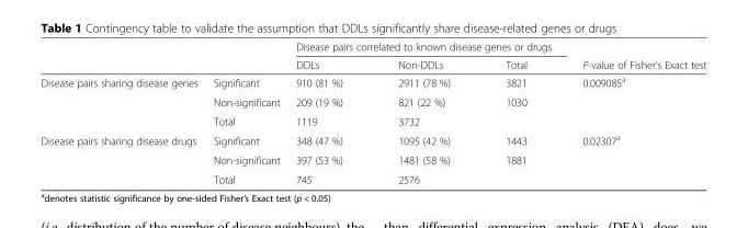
<table><thead><tr><td rowspan="2"></td><td rowspan="2"></td><td colspan="3">Disease pairs correlated to known disease genes or drugs</td><td rowspan="2">P-value of Fisher’s Exact test</td></tr><tr><td>DDLs</td><td>Non-DDLs</td><td>Total</td></tr></thead><tbody><tr><td rowspan="3">Disease pairs sharing disease genes</td><td>Significant</td><td>910 (81 %)</td><td>2911 (78 %)</td><td>3821</td><td>0.009085<sup>a</sup></td></tr><tr><td>Non-significant</td><td>209 (19 %)</td><td>821 (22 %)</td><td>1030</td><td></td></tr><tr><td>Total</td><td>1119</td><td>3732</td><td></td><td></td></tr><tr><td rowspan="3">Disease pairs sharing disease drugs</td><td>Significant</td><td>348 (47 %)</td><td>1095 (42 %)</td><td>1443</td><td>0.02307<sup>a</sup></td></tr><tr><td>Non-significant</td><td>397 (53 %)</td><td>1481 (58 %)</td><td>1881</td><td></td></tr><tr><td>Total</td><td>745</td><td>2576</td><td></td><td></td></tr></tbody></table>